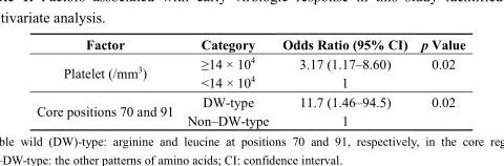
<table><thead><tr><td>Factor</td><td>Category</td><td>Odds Ratio (95% CI)</td><td>p Value</td></tr></thead><tbody><tr><td rowspan="2">Platelet (/mm<sup>3</sup>)</td><td>≥14 × 10<sup>4</sup></td><td>3.17 (1.17–8.60)</td><td>0.02</td></tr><tr><td>&lt;14 × 10<sup>4</sup></td><td>1</td><td></td></tr><tr><td rowspan="2">Core positions 70 and 91</td><td>DW-type</td><td>11.7 (1.46–94.5)</td><td>0.02</td></tr><tr><td>Non–DW-type</td><td>1</td><td></td></tr></tbody></table>